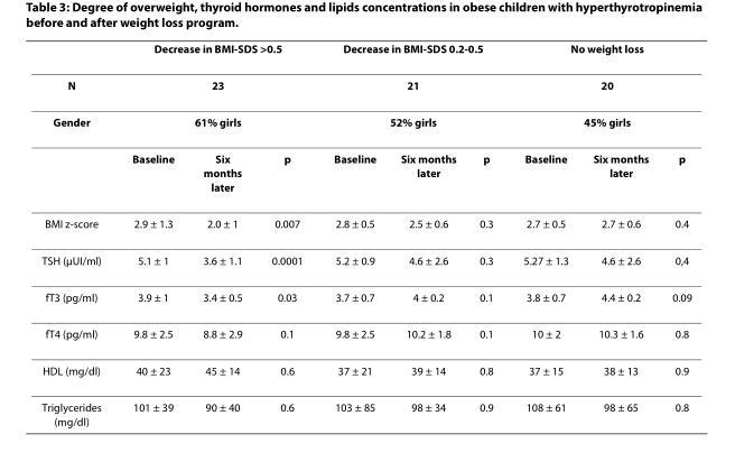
<table><thead><tr><td rowspan="4">N Gender</td><td rowspan="3" colspan="3">Decrease in BMI-SDS &gt;0.5 23 61% girls</td><td rowspan="3" colspan="3">Decrease in BMI-SDS 0.2-0.5 21 52% girls</td><td rowspan="3" colspan="3">No weight loss 20 45% girls</td></tr><tr></tr><tr></tr><tr><td>Baseline</td><td>Six months later</td><td>p</td><td>Baseline</td><td>Six months later</td><td>p</td><td>Baseline</td><td>Six months later</td><td>p</td></tr></thead><tbody><tr><td>BMI z-score</td><td>2.9 ± 1.3</td><td>2.0 ± 1</td><td>0.007</td><td>2.8 ± 0.5</td><td>2.5 ± 0.6</td><td>0.3</td><td>2.7 ± 0.5</td><td>2.7 ± 0.6</td><td>0.4</td></tr><tr><td>TSH (μUI/ml)</td><td>5.1 ± 1</td><td>3.6 ± 1.1</td><td>0.0001</td><td>5.2 ± 0.9</td><td>4.6 ± 2.6</td><td>0.3</td><td>5.27 ± 1.3</td><td>4.6 ± 2.6</td><td>0,4</td></tr><tr><td>fT3 (pg/ml)</td><td>3.9 ± 1</td><td>3.4 ± 0.5</td><td>0.03</td><td>3.7 ± 0.7</td><td>4 ± 0.2</td><td>0.1</td><td>3.8 ± 0.7</td><td>4.4 ± 0.2</td><td>0.09</td></tr><tr><td>fT4 (pg/ml)</td><td>9.8 ± 2.5</td><td>8.8 ± 2.9</td><td>0.1</td><td>9.8 ± 2.5</td><td>10.2 ± 1.8</td><td>0.1</td><td>10 ± 2</td><td>10.3 ± 1.6</td><td>0.8</td></tr><tr><td>HDL (mg/dl)</td><td>40 ± 23</td><td>45 ± 14</td><td>0.6</td><td>37 ± 21</td><td>39 ± 14</td><td>0.8</td><td>37 ± 15</td><td>38 ± 13</td><td>0.9</td></tr><tr><td>Triglycerides (mg/dl)</td><td>101 ± 39</td><td>90 ± 40</td><td>0.6</td><td>103 ± 85</td><td>98 ± 34</td><td>0.9</td><td>108 ± 61</td><td>98 ± 65</td><td>0.8</td></tr></tbody></table>